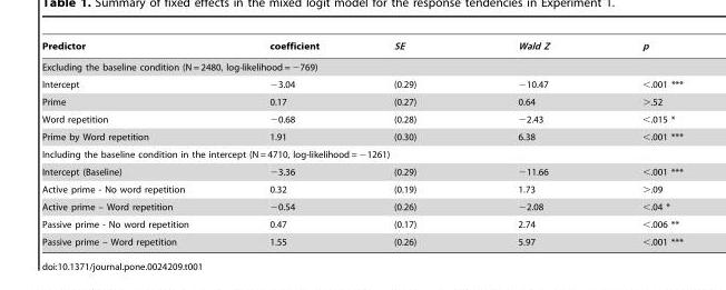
<table><thead><tr><td>Predictor</td><td>coefficient</td><td>SE</td><td>Wald Z</td><td>p</td></tr></thead><tbody><tr><td colspan="5">Excluding the baseline condition (N = 2480, log-likelihood = −769)</td></tr><tr><td>Intercept</td><td>−3.04</td><td>(0.29)</td><td>−10.47</td><td>&lt;.001 ***</td></tr><tr><td>Prime</td><td>0.17</td><td>(0.27)</td><td>0.64</td><td>&gt;.52</td></tr><tr><td>Word repetition</td><td>−0.68</td><td>(0.28)</td><td>−2.43</td><td>&lt;.015 *</td></tr><tr><td>Prime by Word repetition</td><td>1.91</td><td>(0.30)</td><td>6.38</td><td>&lt;.001 ***</td></tr><tr><td colspan="5">Including the baseline condition in the intercept (N = 4710, log-likelihood = −1261)</td></tr><tr><td>Intercept (Baseline)</td><td>−3.36</td><td>(0.29)</td><td>−11.66</td><td>&lt;.001 ***</td></tr><tr><td>Active prime - No word repetition</td><td>0.32</td><td>(0.19)</td><td>1.73</td><td>&gt;.09</td></tr><tr><td>Active prime – Word repetition</td><td>−0.54</td><td>(0.26)</td><td>−2.08</td><td>&lt;.04 *</td></tr><tr><td>Passive prime - No word repetition</td><td>0.47</td><td>(0.17)</td><td>2.74</td><td>&lt;.006 **</td></tr><tr><td>Passive prime – Word repetition</td><td>1.55</td><td>(0.26)</td><td>5.97</td><td>&lt;.001 ***</td></tr></tbody></table>